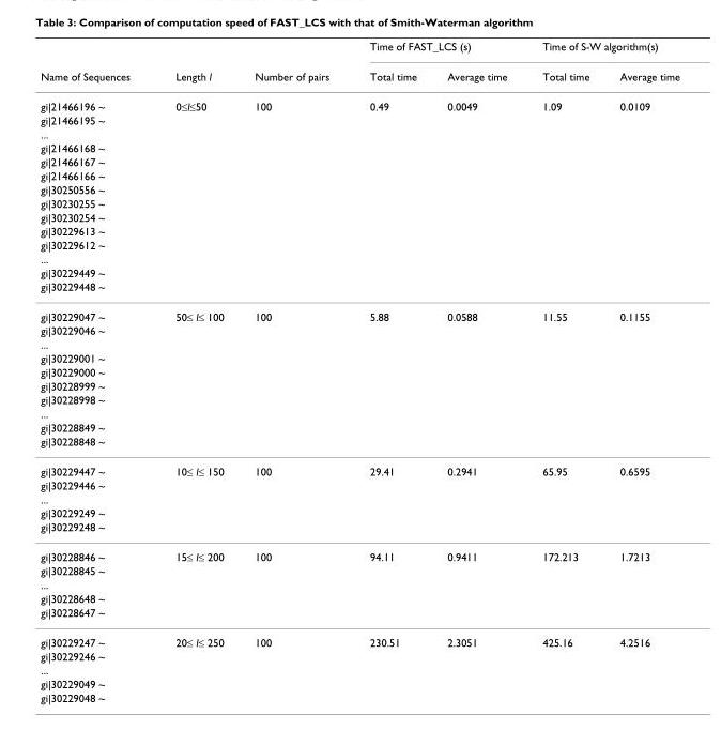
<table><thead><tr><td rowspan="2">Name of Sequences</td><td rowspan="2">Length l</td><td rowspan="2">Number of pairs</td><td colspan="2">Time of FAST_LCS (s)</td><td colspan="2">Time of S-W algorithm(s)</td></tr><tr><td>Total time</td><td>Average time</td><td>Total time</td><td>Average time</td></tr></thead><tbody><tr><td>gi|21466196 ~</td><td>0≤l≤50</td><td>100</td><td>0.49</td><td>0.0049</td><td>1.09</td><td>0.0109</td></tr><tr><td colspan="7">gi|21466195 ~</td></tr><tr><td colspan="7">...</td></tr><tr><td colspan="7">gi|21466168 ~</td></tr><tr><td colspan="7">gi|21466167 ~</td></tr><tr><td colspan="7">gi|21466166 ~</td></tr><tr><td colspan="7">gi|30250556 ~</td></tr><tr><td colspan="7">gi|30230255 ~</td></tr><tr><td colspan="7">gi|30230254 ~</td></tr><tr><td colspan="7">gi|30229613 ~</td></tr><tr><td colspan="7">gi|30229612 ~</td></tr><tr><td colspan="7">...</td></tr><tr><td colspan="7">gi|30229449 ~</td></tr><tr><td colspan="7">gi|30229448 ~</td></tr><tr><td>gi|30229047 ~</td><td>50≤ l≤ 100</td><td>100</td><td>5.88</td><td>0.0588</td><td>11.55</td><td>0.1155</td></tr><tr><td colspan="7">gi|30229046 ~</td></tr><tr><td colspan="7">...</td></tr><tr><td colspan="7">gi|30229001 ~</td></tr><tr><td colspan="7">gi|30229000 ~</td></tr><tr><td colspan="7">gi|30228999 ~</td></tr><tr><td colspan="7">gi|30228998 ~</td></tr><tr><td colspan="7">...</td></tr><tr><td colspan="7">gi|30228849 ~</td></tr><tr><td colspan="7">gi|30228848 ~</td></tr><tr><td>gi|30229447 ~</td><td>10≤ l≤ 150</td><td>100</td><td>29.41</td><td>0.2941</td><td>65.95</td><td>0.6595</td></tr><tr><td colspan="7">gi|30229446 ~</td></tr><tr><td colspan="7">...</td></tr><tr><td colspan="7">gi|30229249 ~</td></tr><tr><td colspan="7">gi|30229248 ~</td></tr><tr><td>gi|30228846 ~</td><td>15≤ l≤ 200</td><td>100</td><td>94.11</td><td>0.9411</td><td>172.213</td><td>1.7213</td></tr><tr><td colspan="7">gi|30228845 ~</td></tr><tr><td colspan="7">...</td></tr><tr><td colspan="7">gi|30228648 ~</td></tr><tr><td colspan="7">gi|30228647 ~</td></tr><tr><td>gi|30229247 ~</td><td>20≤ l≤ 250</td><td>100</td><td>230.51</td><td>2.3051</td><td>425.16</td><td>4.2516</td></tr><tr><td colspan="7">gi|30229246 ~</td></tr><tr><td colspan="7">...</td></tr><tr><td colspan="7">gi|30229049 ~</td></tr><tr><td>gi|30229048 ~</td><td></td><td></td><td></td><td></td><td></td><td></td></tr></tbody></table>